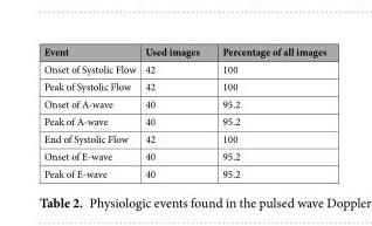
<table><thead><tr><td>Event</td><td>Used images</td><td>Percentage of all images</td></tr></thead><tbody><tr><td>Onset of Systolic Flow</td><td>42</td><td>100</td></tr><tr><td>Peak of Systolic Flow</td><td>42</td><td>100</td></tr><tr><td>Onset of A-wave</td><td>40</td><td>95.2</td></tr><tr><td>Peak of A-wave</td><td>40</td><td>95.2</td></tr><tr><td>End of Systolic Flow</td><td>42</td><td>100</td></tr><tr><td>Onset of E-wave</td><td>40</td><td>95.2</td></tr><tr><td>Peak of E-wave</td><td>40</td><td>95.2</td></tr></tbody></table>